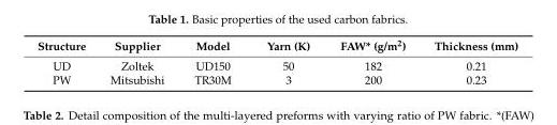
<table><thead><tr><td>Structure</td><td>Supplier</td><td>Model</td><td>Yarn (K)</td><td>FAW* (g/m<sup>2</sup>)</td><td>Thickness (mm)</td></tr></thead><tbody><tr><td>UD</td><td>Zoltek</td><td>UD150</td><td>50</td><td>182</td><td>0.21</td></tr><tr><td>PW</td><td>Mitsubishi</td><td>TR30M</td><td>3</td><td>200</td><td>0.23</td></tr></tbody></table>